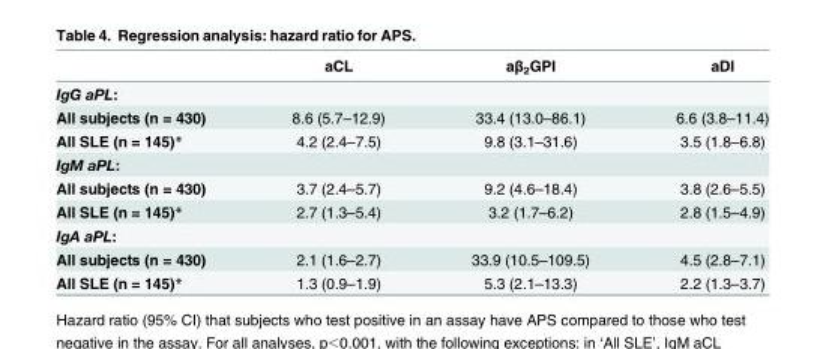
<table><thead><tr><td></td><td>aCL</td><td>aβ<sub>2</sub>GPI</td><td>aDI</td></tr></thead><tbody><tr><td colspan="4">IgG aPL:</td></tr><tr><td>All subjects (n = 430)</td><td>8.6 (5.7–12.9)</td><td>33.4 (13.0–86.1)</td><td>6.6 (3.8–11.4)</td></tr><tr><td>All SLE (n = 145)*</td><td>4.2 (2.4–7.5)</td><td>9.8 (3.1–31.6)</td><td>3.5 (1.8–6.8)</td></tr><tr><td colspan="4">IgM aPL:</td></tr><tr><td>All subjects (n = 430)</td><td>3.7 (2.4–5.7)</td><td>9.2 (4.6–18.4)</td><td>3.8 (2.6–5.5)</td></tr><tr><td>All SLE (n = 145)*</td><td>2.7 (1.3–5.4)</td><td>3.2 (1.7–6.2)</td><td>2.8 (1.5–4.9)</td></tr><tr><td colspan="4">IgA aPL:</td></tr><tr><td>All subjects (n = 430)</td><td>2.1 (1.6–2.7)</td><td>33.9 (10.5–109.5)</td><td>4.5 (2.8–7.1)</td></tr><tr><td>All SLE (n = 145)*</td><td>1.3 (0.9–1.9)</td><td>5.3 (2.1–13.3)</td><td>2.2 (1.3–3.7)</td></tr></tbody></table>